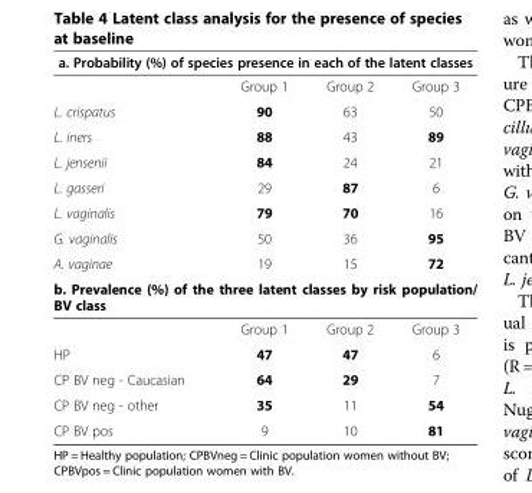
<table><thead><tr><td colspan="4">a. Probability (%) of species presence in each of the latent classes</td></tr><tr><td></td><td>Group 1</td><td>Group 2</td><td>Group 3</td></tr></thead><tbody><tr><td>L. crispatus</td><td>90</td><td>63</td><td>50</td></tr><tr><td>L. iners</td><td>88</td><td>43</td><td>89</td></tr><tr><td>L. jensenii</td><td>84</td><td>24</td><td>21</td></tr><tr><td>L. gasseri</td><td>29</td><td>87</td><td>6</td></tr><tr><td>L. vaginalis</td><td>79</td><td>70</td><td>16</td></tr><tr><td>G. vaginalis</td><td>50</td><td>36</td><td>95</td></tr><tr><td>A. vaginae</td><td>19</td><td>15</td><td>72</td></tr><tr><td colspan="4">b. Prevalence (%) of the three latent classes by risk population/ BV class</td></tr><tr><td></td><td>Group 1</td><td>Group 2</td><td>Group 3</td></tr><tr><td>HP</td><td>47</td><td>47</td><td>6</td></tr><tr><td>CP BV neg - Caucasian</td><td>64</td><td>29</td><td>7</td></tr><tr><td>CP BV neg - other</td><td>35</td><td>11</td><td>54</td></tr><tr><td>CP BV pos</td><td>9</td><td>10</td><td>81</td></tr></tbody></table>